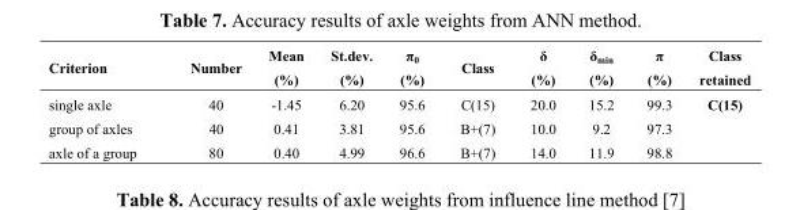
<table><thead><tr><td>Criterion</td><td>Number</td><td>Mean (%)</td><td>St.dev. (%)</td><td>π<sub>0</sub> (%)</td><td>Class</td><td>δ (%)</td><td>δ<sub>min</sub> (%)</td><td>π (%)</td><td>Class retained</td></tr></thead><tbody><tr><td>single axle</td><td>40</td><td>-1.45</td><td>6.20</td><td>95.6</td><td>C(15)</td><td>20.0</td><td>15.2</td><td>99.3</td><td rowspan="3">C(15)</td></tr><tr><td>group of axles</td><td>40</td><td>0.41</td><td>3.81</td><td>95.6</td><td>B+(7)</td><td>10.0</td><td>9.2</td><td>97.3</td></tr><tr><td>axle of a group</td><td>80</td><td>0.40</td><td>4.99</td><td>96.6</td><td>B+(7)</td><td>14.0</td><td>11.9</td><td>98.8</td></tr></tbody></table>